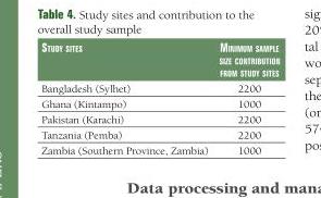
<table><thead><tr><td>study sites</td><td>minimum sample size contribution from study sites</td></tr></thead><tbody><tr><td>Bangladesh (Sylhet)</td><td>2200</td></tr><tr><td>Ghana (Kintampo)</td><td>1000</td></tr><tr><td>Pakistan (Karachi)</td><td>2200</td></tr><tr><td>Tanzania (Pemba)</td><td>2200</td></tr><tr><td>Zambia (Southern Province, Zambia)</td><td>1000</td></tr></tbody></table>